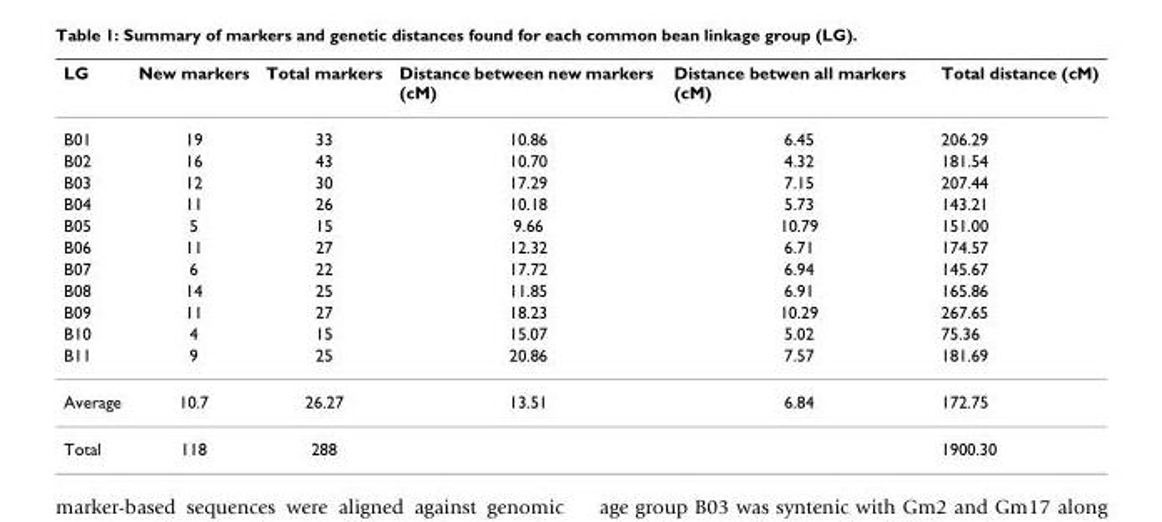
<table><thead><tr><td>LG</td><td>New markers</td><td>Total markers</td><td>Distance between new markers (cM)</td><td>Distance betwen all markers (cM)</td><td>Total distance (cM)</td></tr></thead><tbody><tr><td>B01</td><td>19</td><td>33</td><td>10.86</td><td>6.45</td><td>206.29</td></tr><tr><td>B02</td><td>16</td><td>43</td><td>10.70</td><td>4.32</td><td>181.54</td></tr><tr><td>B03</td><td>12</td><td>30</td><td>17.29</td><td>7.15</td><td>207.44</td></tr><tr><td>B04</td><td>11</td><td>26</td><td>10.18</td><td>5.73</td><td>143.21</td></tr><tr><td>B05</td><td>5</td><td>15</td><td>9.66</td><td>10.79</td><td>151.00</td></tr><tr><td>B06</td><td>11</td><td>27</td><td>12.32</td><td>6.71</td><td>174.57</td></tr><tr><td>B07</td><td>6</td><td>22</td><td>17.72</td><td>6.94</td><td>145.67</td></tr><tr><td>B08</td><td>14</td><td>25</td><td>11.85</td><td>6.91</td><td>165.86</td></tr><tr><td>B09</td><td>11</td><td>27</td><td>18.23</td><td>10.29</td><td>267.65</td></tr><tr><td>B10</td><td>4</td><td>15</td><td>15.07</td><td>5.02</td><td>75.36</td></tr><tr><td>B11</td><td>9</td><td>25</td><td>20.86</td><td>7.57</td><td>181.69</td></tr><tr><td>Average</td><td>10.7</td><td>26.27</td><td>13.51</td><td>6.84</td><td>172.75</td></tr><tr><td>Total</td><td>118</td><td>288</td><td></td><td></td><td>1900.30</td></tr></tbody></table>